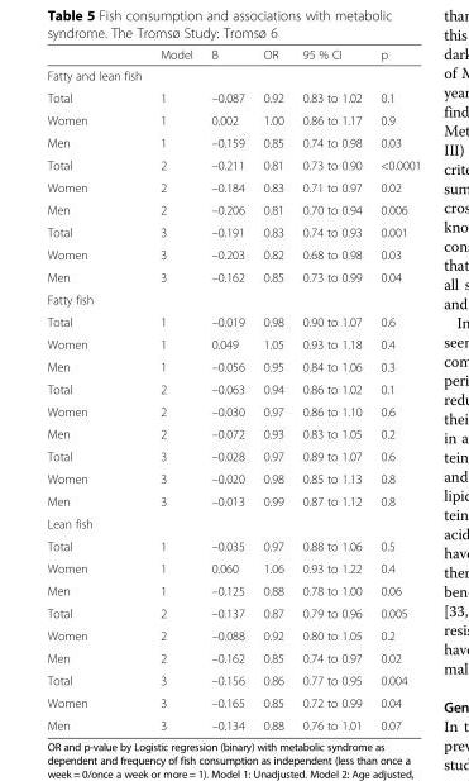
<table><thead><tr><td></td><td>Model</td><td>B</td><td>OR</td><td>95 % CI</td><td>p</td></tr></thead><tbody><tr><td colspan="6">Fatty and lean fish</td></tr><tr><td>Total</td><td>1</td><td>–0.087</td><td>0.92</td><td>0.83 to 1.02</td><td>0.1</td></tr><tr><td>Women</td><td>1</td><td>0.002</td><td>1.00</td><td>0.86 to 1.17</td><td>0.9</td></tr><tr><td>Men</td><td>1</td><td>–0.159</td><td>0.85</td><td>0.74 to 0.98</td><td>0.03</td></tr><tr><td>Total</td><td>2</td><td>–0.211</td><td>0.81</td><td>0.73 to 0.90</td><td>&lt;0.0001</td></tr><tr><td>Women</td><td>2</td><td>–0.184</td><td>0.83</td><td>0.71 to 0.97</td><td>0.02</td></tr><tr><td>Men</td><td>2</td><td>–0.206</td><td>0.81</td><td>0.70 to 0.94</td><td>0.006</td></tr><tr><td>Total</td><td>3</td><td>–0.191</td><td>0.83</td><td>0.74 to 0.93</td><td>0.001</td></tr><tr><td>Women</td><td>3</td><td>–0.203</td><td>0.82</td><td>0.68 to 0.98</td><td>0.03</td></tr><tr><td>Men</td><td>3</td><td>–0.162</td><td>0.85</td><td>0.73 to 0.99</td><td>0.04</td></tr><tr><td colspan="6">Fatty fish</td></tr><tr><td>Total</td><td>1</td><td>–0.019</td><td>0.98</td><td>0.90 to 1.07</td><td>0.6</td></tr><tr><td>Women</td><td>1</td><td>0.049</td><td>1.05</td><td>0.93 to 1.18</td><td>0.4</td></tr><tr><td>Men</td><td>1</td><td>–0.056</td><td>0.95</td><td>0.84 to 1.06</td><td>0.3</td></tr><tr><td>Total</td><td>2</td><td>–0.063</td><td>0.94</td><td>0.86 to 1.02</td><td>0.1</td></tr><tr><td>Women</td><td>2</td><td>–0.030</td><td>0.97</td><td>0.86 to 1.10</td><td>0.6</td></tr><tr><td>Men</td><td>2</td><td>–0.072</td><td>0.93</td><td>0.83 to 1.05</td><td>0.2</td></tr><tr><td>Total</td><td>3</td><td>–0.028</td><td>0.97</td><td>0.89 to 1.07</td><td>0.6</td></tr><tr><td>Women</td><td>3</td><td>–0.020</td><td>0.98</td><td>0.85 to 1.13</td><td>0.8</td></tr><tr><td>Men</td><td>3</td><td>–0.013</td><td>0.99</td><td>0.87 to 1.12</td><td>0.8</td></tr><tr><td colspan="6">Lean fish</td></tr><tr><td>Total</td><td>1</td><td>–0.035</td><td>0.97</td><td>0.88 to 1.06</td><td>0.5</td></tr><tr><td>Women</td><td>1</td><td>0.060</td><td>1.06</td><td>0.93 to 1.22</td><td>0.4</td></tr><tr><td>Men</td><td>1</td><td>–0.125</td><td>0.88</td><td>0.78 to 1.00</td><td>0.06</td></tr><tr><td>Total</td><td>2</td><td>–0.137</td><td>0.87</td><td>0.79 to 0.96</td><td>0.005</td></tr><tr><td>Women</td><td>2</td><td>–0.088</td><td>0.92</td><td>0.80 to 1.05</td><td>0.2</td></tr><tr><td>Men</td><td>2</td><td>–0.162</td><td>0.85</td><td>0.74 to 0.97</td><td>0.02</td></tr><tr><td>Total</td><td>3</td><td>–0.156</td><td>0.86</td><td>0.77 to 0.95</td><td>0.004</td></tr><tr><td>Women</td><td>3</td><td>–0.165</td><td>0.85</td><td>0.72 to 0.99</td><td>0.04</td></tr><tr><td>Men</td><td>3</td><td>–0.134</td><td>0.88</td><td>0.76 to 1.01</td><td>0.07</td></tr></tbody></table>